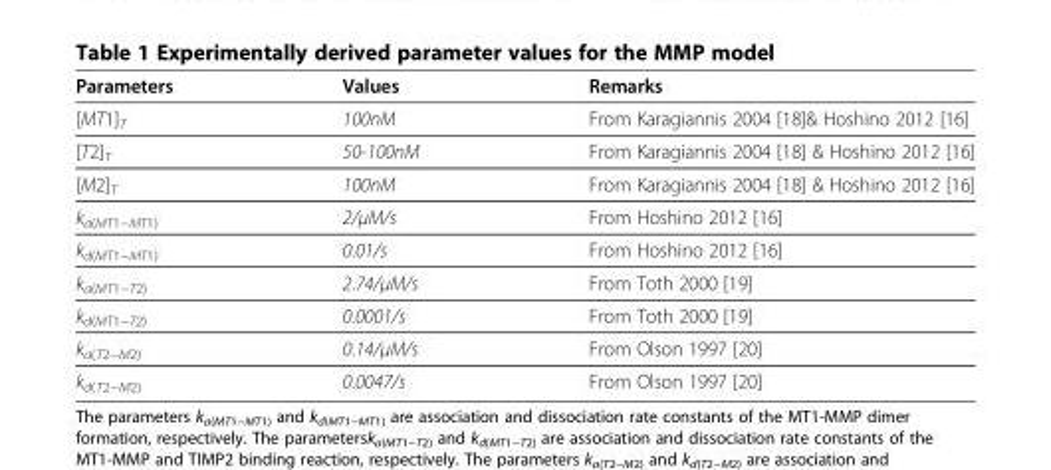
<table><thead><tr><td>Parameters</td><td>Values</td><td>Remarks</td></tr></thead><tbody><tr><td>[MT1]<sub>T</sub></td><td>100nM</td><td>From Karagiannis 2004 [18]&amp; Hoshino 2012 [16]</td></tr><tr><td>[T2]<sub>T</sub></td><td>50-100nM</td><td>From Karagiannis 2004 [18] &amp; Hoshino 2012 [16]</td></tr><tr><td>[M2]<sub>T</sub></td><td>100nM</td><td>From Karagiannis 2004 [18] &amp; Hoshino 2012 [16]</td></tr><tr><td>k<sub>a(MT1−MT1)</sub></td><td>2/μM/s</td><td>From Hoshino 2012 [16]</td></tr><tr><td>k<sub>d(MT1−MT1)</sub></td><td>0.01/s</td><td>From Hoshino 2012 [16]</td></tr><tr><td>k<sub>a(MT1−T2)</sub></td><td>2.74/μM/s</td><td>From Toth 2000 [19]</td></tr><tr><td>k<sub>d(MT1−T2)</sub></td><td>0.0001/s</td><td>From Toth 2000 [19]</td></tr><tr><td>k<sub>a(T2−M2)</sub></td><td>0.14/μM/s</td><td>From Olson 1997 [20]</td></tr><tr><td>k<sub>d(T2−M2)</sub></td><td>0.0047/s</td><td>From Olson 1997 [20]</td></tr></tbody></table>